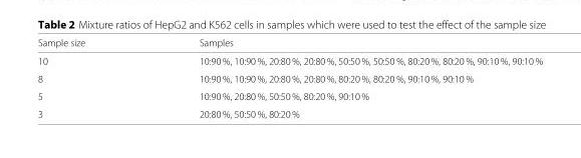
<table><thead><tr><td>Sample size</td><td>Samples</td></tr></thead><tbody><tr><td>10</td><td>10:90 %, 10:90 %, 20:80 %, 20:80 %, 50:50 %, 50:50 %, 80:20 %, 80:20 %, 90:10 %, 90:10 %</td></tr><tr><td>8</td><td>10:90 %, 10:90 %, 20:80 %, 20:80 %, 80:20 %, 80:20 %, 90:10 %, 90:10 %</td></tr><tr><td>5</td><td>10:90 %, 20:80 %, 50:50 %, 80:20 %, 90:10 %</td></tr><tr><td>3</td><td>20:80 %, 50:50 %, 80:20 %</td></tr></tbody></table>